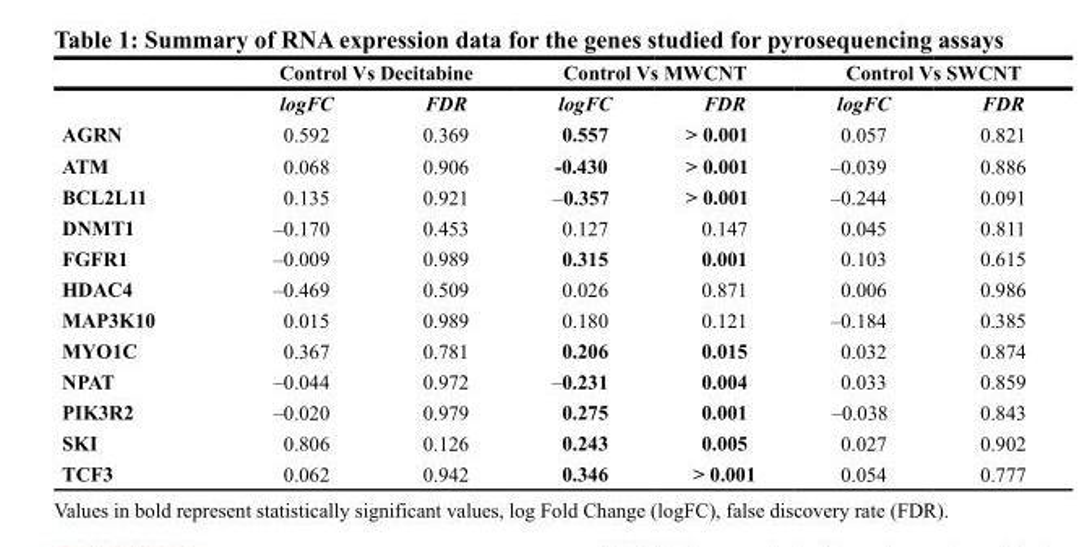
<table><thead><tr><td rowspan="2"></td><td colspan="2">Control Vs Decitabine</td><td colspan="2">Control Vs MWCNT</td><td colspan="2">Control Vs SWCNT</td></tr><tr><td>logFC</td><td>FDR</td><td>logFC</td><td>FDR</td><td>logFC</td><td>FDR</td></tr></thead><tbody><tr><td>AGRN</td><td>0.592</td><td>0.369</td><td>0.557</td><td>&gt; 0.001</td><td>0.057</td><td>0.821</td></tr><tr><td>ATM</td><td>0.068</td><td>0.906</td><td>-0.430</td><td>&gt; 0.001</td><td>–0.039</td><td>0.886</td></tr><tr><td>BCL2L11</td><td>0.135</td><td>0.921</td><td>–0.357</td><td>&gt; 0.001</td><td>–0.244</td><td>0.091</td></tr><tr><td>DNMT1</td><td>–0.170</td><td>0.453</td><td>0.127</td><td>0.147</td><td>0.045</td><td>0.811</td></tr><tr><td>FGFR1</td><td>–0.009</td><td>0.989</td><td>0.315</td><td>0.001</td><td>0.103</td><td>0.615</td></tr><tr><td>HDAC4</td><td>–0.469</td><td>0.509</td><td>0.026</td><td>0.871</td><td>0.006</td><td>0.986</td></tr><tr><td>MAP3K10</td><td>0.015</td><td>0.989</td><td>0.180</td><td>0.121</td><td>–0.184</td><td>0.385</td></tr><tr><td>MYO1C</td><td>0.367</td><td>0.781</td><td>0.206</td><td>0.015</td><td>0.032</td><td>0.874</td></tr><tr><td>NPAT</td><td>–0.044</td><td>0.972</td><td>–0.231</td><td>0.004</td><td>0.033</td><td>0.859</td></tr><tr><td>PIK3R2</td><td>–0.020</td><td>0.979</td><td>0.275</td><td>0.001</td><td>–0.038</td><td>0.843</td></tr><tr><td>SKI</td><td>0.806</td><td>0.126</td><td>0.243</td><td>0.005</td><td>0.027</td><td>0.902</td></tr><tr><td>TCF3</td><td>0.062</td><td>0.942</td><td>0.346</td><td>&gt; 0.001</td><td>0.054</td><td>0.777</td></tr></tbody></table>